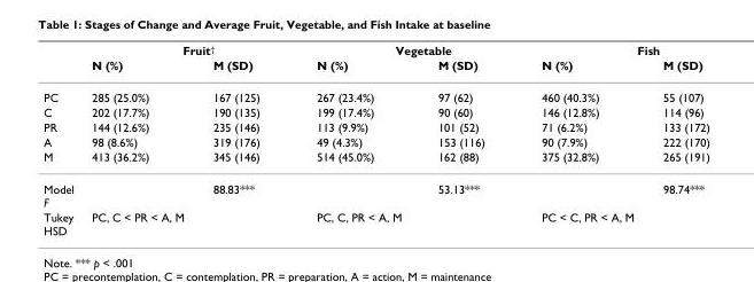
<table><thead><tr><td rowspan="2"></td><td colspan="2">Fruit<sup>†</sup></td><td colspan="2">Vegetable</td><td colspan="2">Fish</td></tr><tr><td>N (%)</td><td>M (SD)</td><td>N (%)</td><td>M (SD)</td><td>N (%)</td><td>M (SD)</td></tr></thead><tbody><tr><td>PC</td><td>285 (25.0%)</td><td>167 (125)</td><td>267 (23.4%)</td><td>97 (62)</td><td>460 (40.3%)</td><td>55 (107)</td></tr><tr><td>C</td><td>202 (17.7%)</td><td>190 (135)</td><td>199 (17.4%)</td><td>90 (60)</td><td>146 (12.8%)</td><td>114 (96)</td></tr><tr><td>PR</td><td>144 (12.6%)</td><td>235 (146)</td><td>113 (9.9%)</td><td>101 (52)</td><td>71 (6.2%)</td><td>133 (172)</td></tr><tr><td>A</td><td>98 (8.6%)</td><td>319 (176)</td><td>49 (4.3%)</td><td>153 (116)</td><td>90 (7.9%)</td><td>222 (170)</td></tr><tr><td>M</td><td>413 (36.2%)</td><td>345 (146)</td><td>514 (45.0%)</td><td>162 (88)</td><td>375 (32.8%)</td><td>265 (191)</td></tr><tr><td>Model F</td><td></td><td>88.83***</td><td></td><td>53.13***</td><td></td><td>98.74***</td></tr><tr><td>Tukey HSD</td><td colspan="2">PC, C &lt; PR &lt; A, M</td><td colspan="2">PC, C, PR &lt; A, M</td><td colspan="2">PC &lt; C, PR &lt; A, M</td></tr></tbody></table>